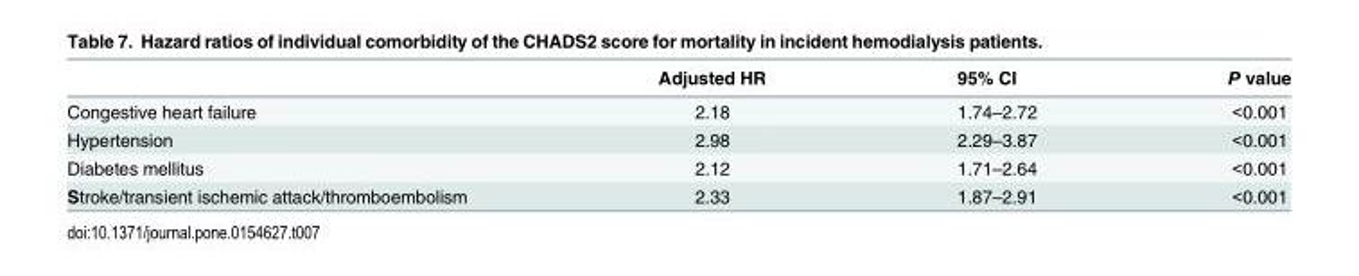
<table><thead><tr><td></td><td>Adjusted HR</td><td>95% CI</td><td>P value</td></tr></thead><tbody><tr><td>Congestive heart failure</td><td>2.18</td><td>1.74–2.72</td><td>&lt;0.001</td></tr><tr><td>Hypertension</td><td>2.98</td><td>2.29–3.87</td><td>&lt;0.001</td></tr><tr><td>Diabetes mellitus</td><td>2.12</td><td>1.71–2.64</td><td>&lt;0.001</td></tr><tr><td>Stroke/transient ischemic attack/thromboembolism</td><td>2.33</td><td>1.87–2.91</td><td>&lt;0.001</td></tr></tbody></table>